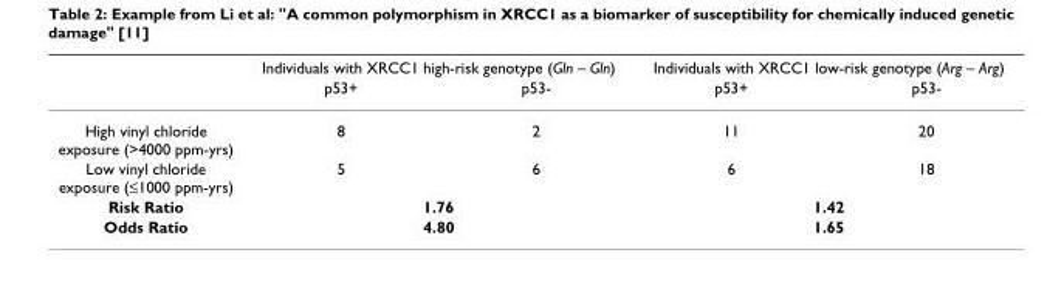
<table><thead><tr><td rowspan="2"></td><td colspan="2">Individuals with XRCC1 high-risk genotype (Gln – Gln)</td><td colspan="2">Individuals with XRCC1 low-risk genotype (Arg – Arg)</td></tr><tr><td>p53+</td><td>p53-</td><td>p53+</td><td>p53-</td></tr></thead><tbody><tr><td>High vinyl chloride exposure (&gt;4000 ppm-yrs)</td><td>8</td><td>2</td><td>11</td><td>20</td></tr><tr><td>Low vinyl chloride exposure (≤1000 ppm-yrs)</td><td>5</td><td>6</td><td>6</td><td>18</td></tr><tr><td>Risk Ratio</td><td colspan="2">1.76</td><td colspan="2">1.42</td></tr><tr><td>Odds Ratio</td><td colspan="2">4.80</td><td colspan="2">1.65</td></tr></tbody></table>